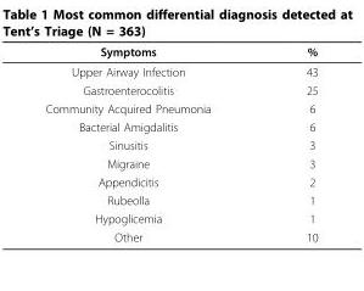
<table><thead><tr><td>Symptoms</td><td>%</td></tr></thead><tbody><tr><td>Upper Airway Infection</td><td>43</td></tr><tr><td>Gastroenterocolitis</td><td>25</td></tr><tr><td>Community Acquired Pneumonia</td><td>6</td></tr><tr><td>Bacterial Amigdalitis</td><td>6</td></tr><tr><td>Sinusitis</td><td>3</td></tr><tr><td>Migraine</td><td>3</td></tr><tr><td>Appendicitis</td><td>2</td></tr><tr><td>Rubeolla</td><td>1</td></tr><tr><td>Hypoglicemia</td><td>1</td></tr><tr><td>Other</td><td>10</td></tr></tbody></table>